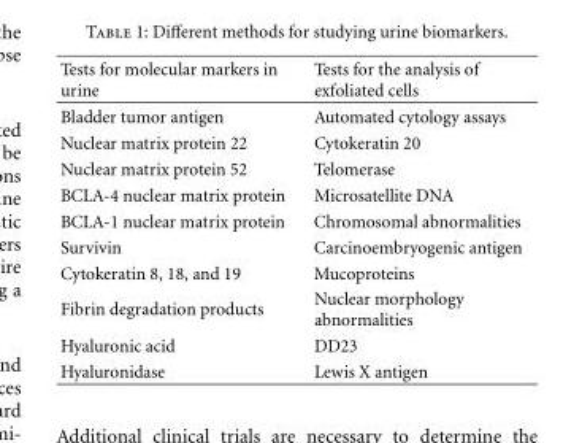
<table><thead><tr><td>Tests for molecular markers in urine</td><td>Tests for the analysis of exfoliated cells</td></tr></thead><tbody><tr><td>Bladder tumor antigen</td><td>Automated cytology assays</td></tr><tr><td>Nuclear matrix protein 22</td><td>Cytokeratin 20</td></tr><tr><td>Nuclear matrix protein 52</td><td>Telomerase</td></tr><tr><td>BCLA-4 nuclear matrix protein</td><td>Microsatellite DNA</td></tr><tr><td>BCLA-1 nuclear matrix protein</td><td>Chromosomal abnormalities</td></tr><tr><td>Survivin</td><td>Carcinoembryogenic antigen</td></tr><tr><td>Cytokeratin 8, 18, and 19</td><td>Mucoproteins</td></tr><tr><td>Fibrin degradation products</td><td>Nuclear morphology abnormalities</td></tr><tr><td>Hyaluronic acid</td><td>DD23</td></tr><tr><td>Hyaluronidase</td><td>Lewis X antigen</td></tr></tbody></table>